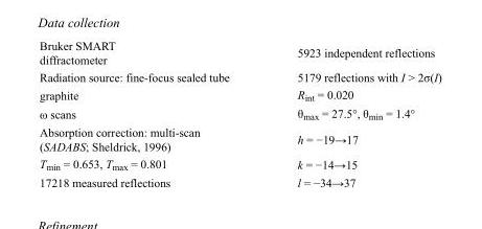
<table><tbody><tr><td>Bruker SMART diffractometer</td><td>5923 independent reflections</td></tr><tr><td>Radiation source: fine-focus sealed tube</td><td>5179 reflections with I &gt; 2σ(I)</td></tr><tr><td>graphite</td><td>R<sub>int</sub> = 0.020</td></tr><tr><td>ω scans</td><td>θ<sub>max</sub> = 27.5°, θ<sub>min</sub> = 1.4°</td></tr><tr><td>Absorption correction: multi-scan (SADABS; Sheldrick, 1996)</td><td>h = −19→17</td></tr><tr><td>T<sub>min</sub> = 0.653, T<sub>max</sub> = 0.801</td><td>k = −14→15</td></tr><tr><td>17218 measured reflections</td><td>l = −34→37</td></tr></tbody></table>